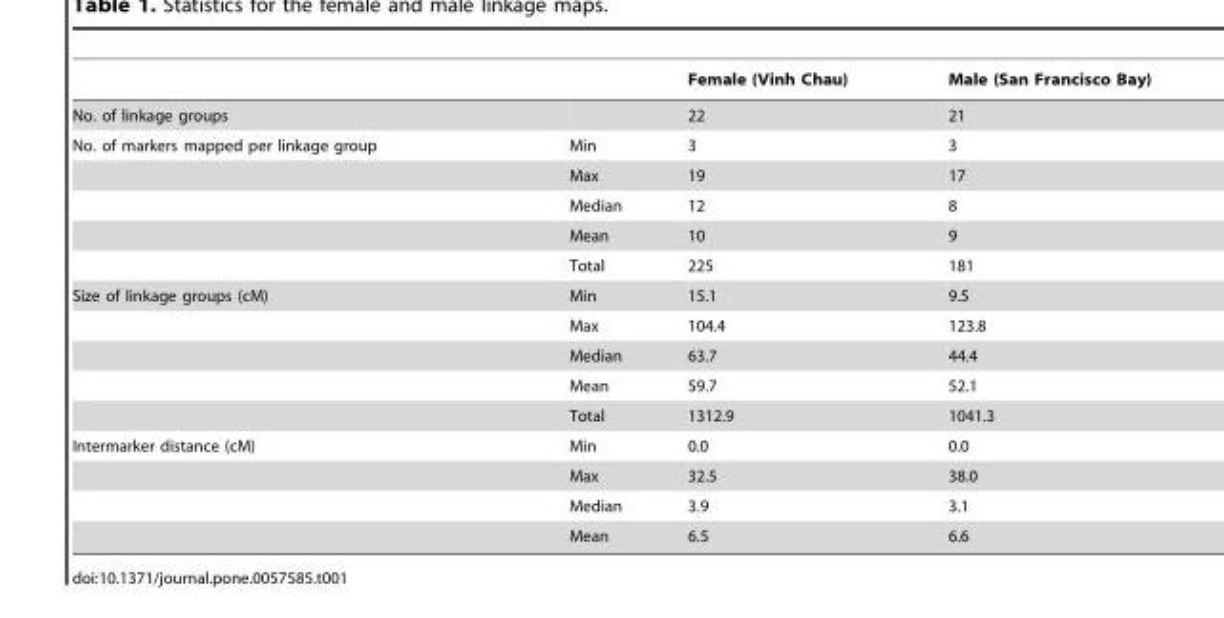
<table><thead><tr><td></td><td></td><td>Female (Vinh Chau)</td><td>Male (San Francisco Bay)</td></tr></thead><tbody><tr><td>No. of linkage groups</td><td></td><td>22</td><td>21</td></tr><tr><td rowspan="5">No. of markers mapped per linkage group</td><td>Min</td><td>3</td><td>3</td></tr><tr><td>Max</td><td>19</td><td>17</td></tr><tr><td>Median</td><td>12</td><td>8</td></tr><tr><td>Mean</td><td>10</td><td>9</td></tr><tr><td>Total</td><td>225</td><td>181</td></tr><tr><td rowspan="5">Size of linkage groups (cM)</td><td>Min</td><td>15.1</td><td>9.5</td></tr><tr><td>Max</td><td>104.4</td><td>123.8</td></tr><tr><td>Median</td><td>63.7</td><td>44.4</td></tr><tr><td>Mean</td><td>59.7</td><td>52.1</td></tr><tr><td>Total</td><td>1312.9</td><td>1041.3</td></tr><tr><td rowspan="4">Intermarker distance (cM)</td><td>Min</td><td>0.0</td><td>0.0</td></tr><tr><td>Max</td><td>32.5</td><td>38.0</td></tr><tr><td>Median</td><td>3.9</td><td>3.1</td></tr><tr><td>Mean</td><td>6.5</td><td>6.6</td></tr></tbody></table>